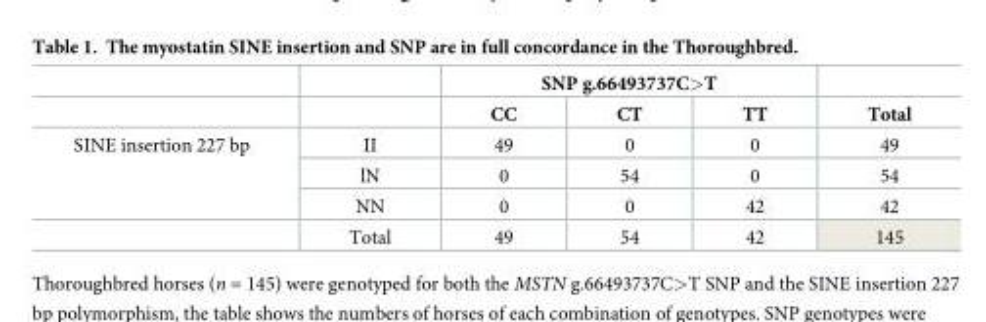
<table><thead><tr><td rowspan="2"></td><td rowspan="2"></td><td colspan="3">SNP g.66493737C&gt;T</td><td rowspan="2">Total</td></tr><tr><td>CC</td><td>CT</td><td>TT</td></tr></thead><tbody><tr><td rowspan="4">SINE insertion 227 bp</td><td>II</td><td>49</td><td>0</td><td>0</td><td>49</td></tr><tr><td>lN</td><td>0</td><td>54</td><td>0</td><td>54</td></tr><tr><td>NN</td><td>0</td><td>0</td><td>42</td><td>42</td></tr><tr><td>Total</td><td>49</td><td>54</td><td>42</td><td>145</td></tr></tbody></table>